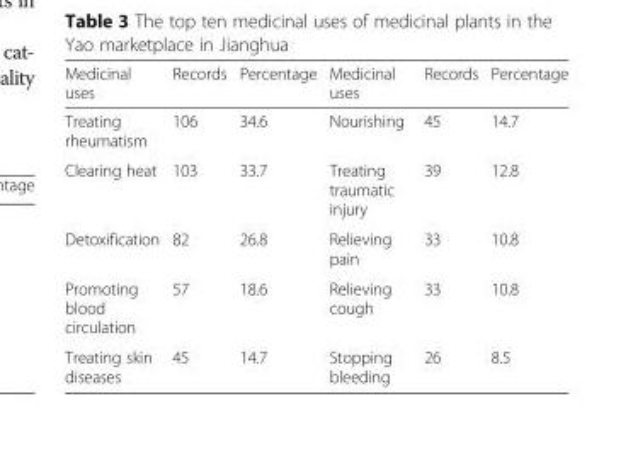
<table><thead><tr><td>Medicinal uses</td><td>Records</td><td>Percentage</td><td>Medicinal uses</td><td>Records</td><td>Percentage</td></tr></thead><tbody><tr><td>Treating rheumatism</td><td>106</td><td>34.6</td><td>Nourishing</td><td>45</td><td>14.7</td></tr><tr><td>Clearing heat</td><td>103</td><td>33.7</td><td>Treating traumatic injury</td><td>39</td><td>12.8</td></tr><tr><td>Detoxification</td><td>82</td><td>26.8</td><td>Relieving pain</td><td>33</td><td>10.8</td></tr><tr><td>Promoting blood circulation</td><td>57</td><td>18.6</td><td>Relieving cough</td><td>33</td><td>10.8</td></tr><tr><td>Treating skin diseases</td><td>45</td><td>14.7</td><td>Stopping bleeding</td><td>26</td><td>8.5</td></tr></tbody></table>